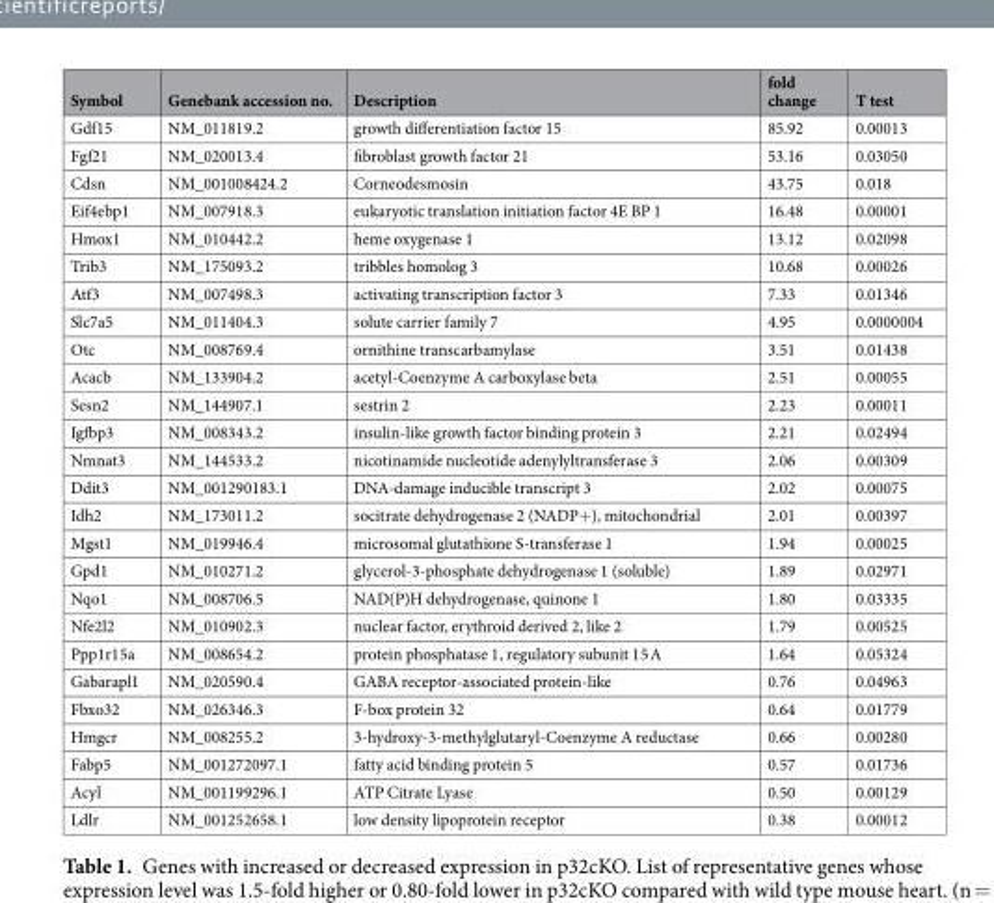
<table><thead><tr><td>Symbol</td><td>Genebank accession no.</td><td>Description</td><td>fold change</td><td>T test</td></tr></thead><tbody><tr><td>Gdf15</td><td>NM_011819.2</td><td>growth differentiation factor 15</td><td>85.92</td><td>0.00013</td></tr><tr><td>Fgf21</td><td>NM_020013.4</td><td>fibroblast growth factor 21</td><td>53.16</td><td>0.03050</td></tr><tr><td>Cdsn</td><td>NM_001008424.2</td><td>Corneodesmosin</td><td>43.75</td><td>0.018</td></tr><tr><td>Eif4ebp1</td><td>NM_007918.3</td><td>eukaryotic translation initiation factor 4E BP 1</td><td>16.48</td><td>0.00001</td></tr><tr><td>Hmox1</td><td>NM_010442.2</td><td>heme oxygenase 1</td><td>13.12</td><td>0.02098</td></tr><tr><td>Trib3</td><td>NM_175093.2</td><td>tribbles homolog 3</td><td>10.68</td><td>0.00026</td></tr><tr><td>Atf3</td><td>NM_007498.3</td><td>activating transcription factor 3</td><td>7.33</td><td>0.01346</td></tr><tr><td>Slc7a5</td><td>NM_011404.3</td><td>solute carrier family 7</td><td>4.95</td><td>0.0000004</td></tr><tr><td>Otc</td><td>NM_008769.4</td><td>ornithine transcarbamylase</td><td>3.51</td><td>0.01438</td></tr><tr><td>Acacb</td><td>NM_133904.2</td><td>acetyl-Coenzyme A carboxylase beta</td><td>2.51</td><td>0.00055</td></tr><tr><td>Sesn2</td><td>NM_144907.1</td><td>sestrin 2</td><td>2.23</td><td>0.00011</td></tr><tr><td>Igfbp3</td><td>NM_008343.2</td><td>insulin-like growth factor binding protein 3</td><td>2.21</td><td>0.02494</td></tr><tr><td>Nmnat3</td><td>NM_144533.2</td><td>nicotinamide nucleotide adenylyltransferase 3</td><td>2.06</td><td>0.00309</td></tr><tr><td>Ddit3</td><td>NM_001290183.1</td><td>DNA-damage inducible transcript 3</td><td>2.02</td><td>0.00075</td></tr><tr><td>Idh2</td><td>NM_173011.2</td><td>socitrate dehydrogenase 2 (NADP+), mitochondrial</td><td>2.01</td><td>0.00397</td></tr><tr><td>Mgst1</td><td>NM_019946.4</td><td>microsomal glutathione S-transferase 1</td><td>1.94</td><td>0.00025</td></tr><tr><td>Gpd1</td><td>NM_010271.2</td><td>glycerol-3-phosphate dehydrogenase 1 (soluble)</td><td>1.89</td><td>0.02971</td></tr><tr><td>Nqo1</td><td>NM_008706.5</td><td>NAD(P)H dehydrogenase, quinone 1</td><td>1.80</td><td>0.03335</td></tr><tr><td>Nfe2l2</td><td>NM_010902.3</td><td>nuclear factor, erythroid derived 2, like 2</td><td>1.79</td><td>0.00525</td></tr><tr><td>Ppp1r15a</td><td>NM_008654.2</td><td>protein phosphatase 1, regulatory subunit 15 A</td><td>1.64</td><td>0.05324</td></tr><tr><td>Gabarapl1</td><td>NM_020590.4</td><td>GABA receptor-associated protein-like</td><td>0.76</td><td>0.04963</td></tr><tr><td>Fbxo32</td><td>NM_026346.3</td><td>F-box protein 32</td><td>0.64</td><td>0.01779</td></tr><tr><td>Hmgcr</td><td>NM_008255.2</td><td>3-hydroxy-3-methylglutaryl-Coenzyme A reductase</td><td>0.66</td><td>0.00280</td></tr><tr><td>Fabp5</td><td>NM_001272097.1</td><td>fatty acid binding protein 5</td><td>0.57</td><td>0.01736</td></tr><tr><td>Acyl</td><td>NM_001199296.1</td><td>ATP Citrate Lyase</td><td>0.50</td><td>0.00129</td></tr><tr><td>Ldlr</td><td>NM_001252658.1</td><td>low density lipoprotein receptor</td><td>0.38</td><td>0.00012</td></tr></tbody></table>